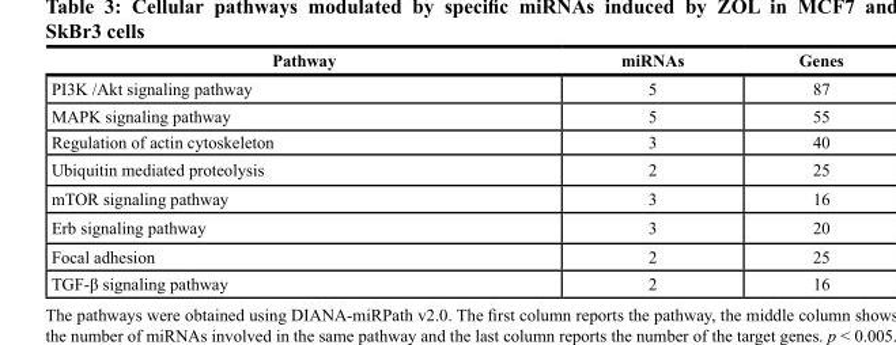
<table><thead><tr><td>Pathway</td><td>miRNAs</td><td>Genes</td></tr></thead><tbody><tr><td>PI3K /Akt signaling pathway</td><td>5</td><td>87</td></tr><tr><td>MAPK signaling pathway</td><td>5</td><td>55</td></tr><tr><td>Regulation of actin cytoskeleton</td><td>3</td><td>40</td></tr><tr><td>Ubiquitin mediated proteolysis</td><td>2</td><td>25</td></tr><tr><td>mTOR signaling pathway</td><td>3</td><td>16</td></tr><tr><td>Erb signaling pathway</td><td>3</td><td>20</td></tr><tr><td>Focal adhesion</td><td>2</td><td>25</td></tr><tr><td>TGF-β signaling pathway</td><td>2</td><td>16</td></tr></tbody></table>